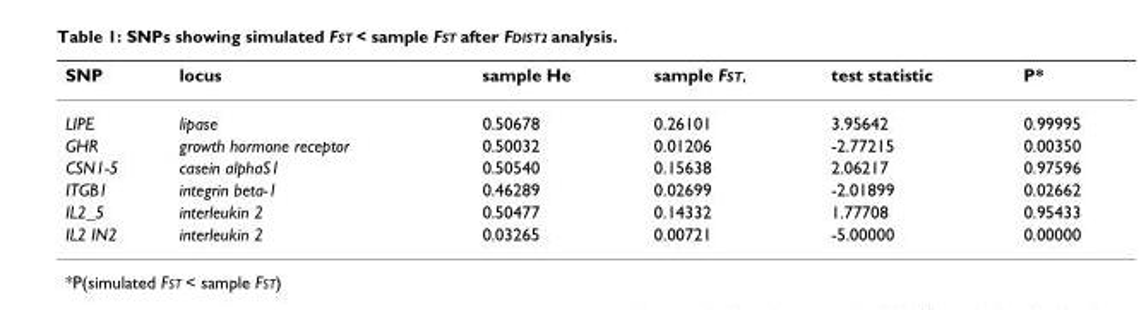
<table><thead><tr><td>SNP</td><td>locus</td><td>sample He</td><td>sample FST,</td><td>test statistic</td><td>P*</td></tr></thead><tbody><tr><td>LIPE</td><td>lipase</td><td>0.50678</td><td>0.26101</td><td>3.95642</td><td>0.99995</td></tr><tr><td>GHR</td><td>growth hormone receptor</td><td>0.50032</td><td>0.01206</td><td>-2.77215</td><td>0.00350</td></tr><tr><td>CSN1-5</td><td>casein alphaS1</td><td>0.50540</td><td>0.15638</td><td>2.06217</td><td>0.97596</td></tr><tr><td>ITGB1</td><td>integrin beta-1</td><td>0.46289</td><td>0.02699</td><td>-2.01899</td><td>0.02662</td></tr><tr><td>IL2_5</td><td>interleukin 2</td><td>0.50477</td><td>0.14332</td><td>1.77708</td><td>0.95433</td></tr><tr><td>IL2 IN2</td><td>interleukin 2</td><td>0.03265</td><td>0.00721</td><td>-5.00000</td><td>0.00000</td></tr></tbody></table>